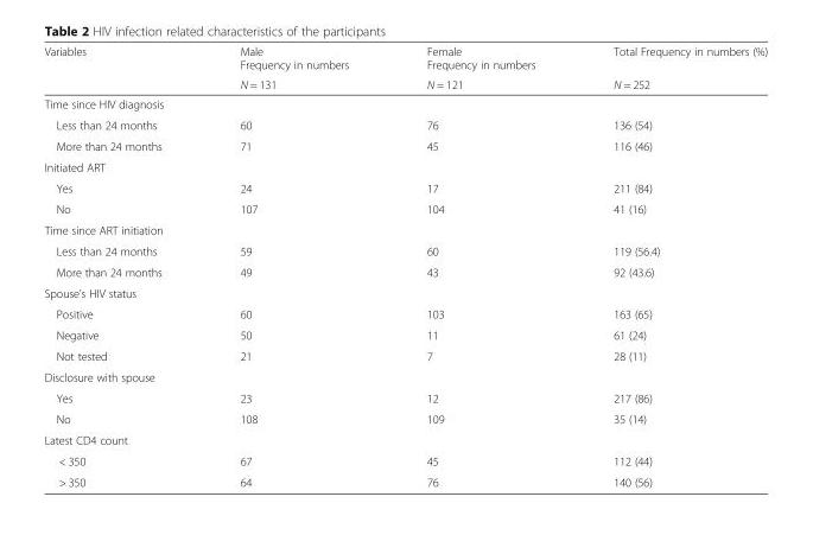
<table><thead><tr><td rowspan="2">Variables</td><td rowspan="2">Male Frequency in numbers N = 131</td><td rowspan="2">Female Frequency in numbers N = 121</td><td rowspan="2">Total Frequency in numbers (%) N = 252</td></tr><tr></tr></thead><tbody><tr><td colspan="4">Time since HIV diagnosis</td></tr><tr><td>Less than 24 months</td><td>60</td><td>76</td><td>136 (54)</td></tr><tr><td>More than 24 months</td><td>71</td><td>45</td><td>116 (46)</td></tr><tr><td colspan="4">Initiated ART</td></tr><tr><td>Yes</td><td>24</td><td>17</td><td>211 (84)</td></tr><tr><td>No</td><td>107</td><td>104</td><td>41 (16)</td></tr><tr><td colspan="4">Time since ART initiation</td></tr><tr><td>Less than 24 months</td><td>59</td><td>60</td><td>119 (56.4)</td></tr><tr><td>More than 24 months</td><td>49</td><td>43</td><td>92 (43.6)</td></tr><tr><td colspan="4">Spouse’s HIV status</td></tr><tr><td>Positive</td><td>60</td><td>103</td><td>163 (65)</td></tr><tr><td>Negative</td><td>50</td><td>11</td><td>61 (24)</td></tr><tr><td>Not tested</td><td>21</td><td>7</td><td>28 (11)</td></tr><tr><td colspan="4">Disclosure with spouse</td></tr><tr><td>Yes</td><td>23</td><td>12</td><td>217 (86)</td></tr><tr><td>No</td><td>108</td><td>109</td><td>35 (14)</td></tr><tr><td colspan="4">Latest CD4 count</td></tr><tr><td>&lt; 350</td><td>67</td><td>45</td><td>112 (44)</td></tr><tr><td>&gt; 350</td><td>64</td><td>76</td><td>140 (56)</td></tr></tbody></table>